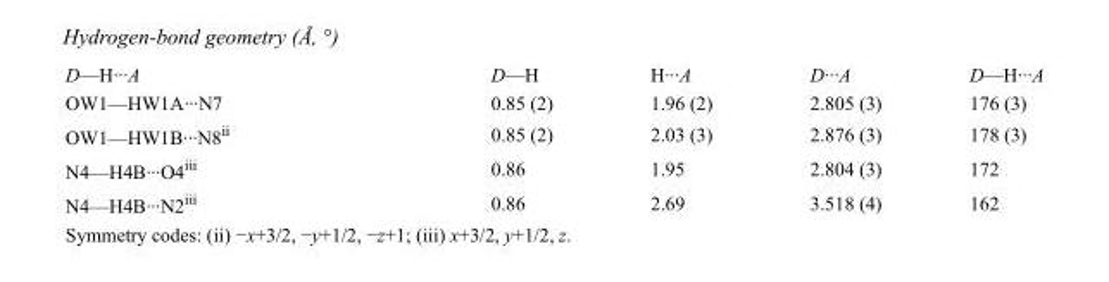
<table><tbody><tr><td>D—H···A</td><td>D—H</td><td>H···A</td><td>D···A</td><td>D—H···A</td></tr><tr><td>OW1—HW1A···N7</td><td>0.85 (2)</td><td>1.96 (2)</td><td>2.805 (3)</td><td>176 (3)</td></tr><tr><td>OW1—HW1B···N8<sup>ii</sup></td><td>0.85 (2)</td><td>2.03 (3)</td><td>2.876 (3)</td><td>178 (3)</td></tr><tr><td>N4—H4B···O4<sup>iii</sup></td><td>0.86</td><td>1.95</td><td>2.804 (3)</td><td>172</td></tr><tr><td>N4—H4B···N2<sup>iii</sup></td><td>0.86</td><td>2.69</td><td>3.518 (4)</td><td>162</td></tr></tbody></table>